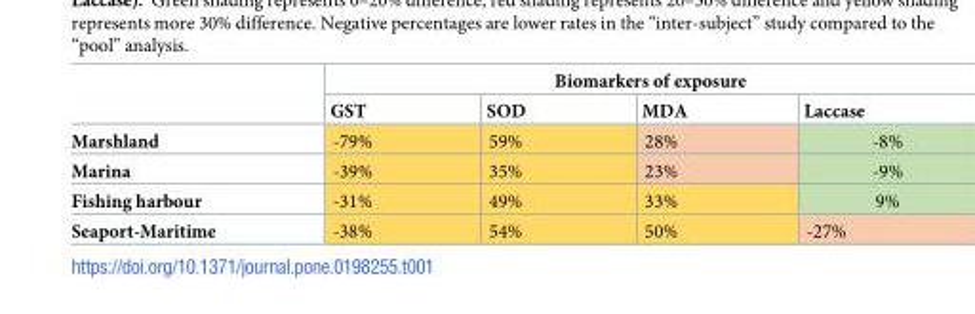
<table><thead><tr><td rowspan="2"></td><td colspan="4">Biomarkers of exposure</td></tr><tr><td>GST</td><td>SOD</td><td>MDA</td><td>Laccase</td></tr></thead><tbody><tr><td>Marshland</td><td>-79%</td><td>59%</td><td>28%</td><td>-8%</td></tr><tr><td>Marina</td><td>-39%</td><td>35%</td><td>23%</td><td>-9%</td></tr><tr><td>Fishing harbour</td><td>-31%</td><td>49%</td><td>33%</td><td>9%</td></tr><tr><td>Seaport-Maritime</td><td>-38%</td><td>54%</td><td>50%</td><td>-27%</td></tr></tbody></table>